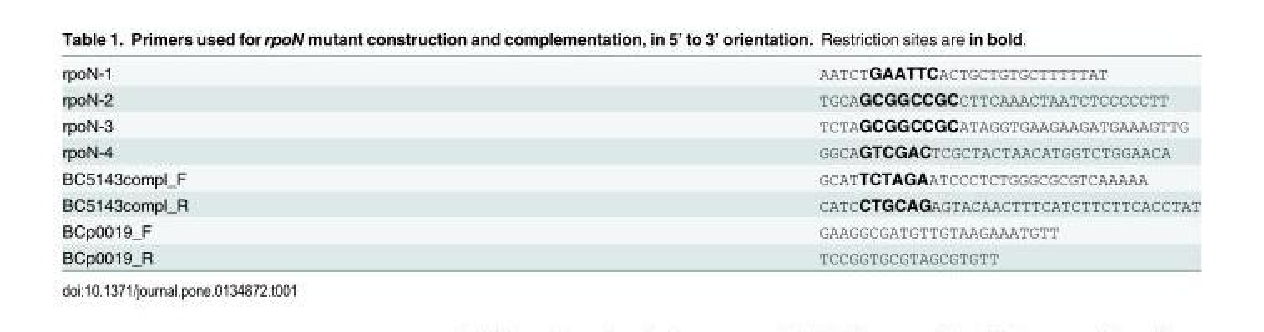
<table><tbody><tr><td>rpoN-1</td><td>AATCTGAATTCACTGCTGTGCTTTTTAT</td></tr><tr><td>rpoN-2</td><td>TGCAGCGGCCGCCTTCAAACTAATCTCCCCCTT</td></tr><tr><td>rpoN-3</td><td>TCTAGCGGCCGCATAGGTGAAGAAGATGAAAGTTG</td></tr><tr><td>rpoN-4</td><td>GGCAGTCGACTCGCTACTAACATGGTCTGGAACA</td></tr><tr><td>BC5143compl_F</td><td>GCATTCTAGAATCCCTCTGGGCGCGTCAAAAA</td></tr><tr><td>BC5143compl_R</td><td>CATCCTGCAGAGTACAACTTTCATCTTCTTCACCTAT</td></tr><tr><td>BCp0019_F</td><td>GAAGGCGATGTTGTAAGAAATGTT</td></tr><tr><td>BCp0019_R</td><td>TCCGGTGCGTAGCGTGTT</td></tr></tbody></table>